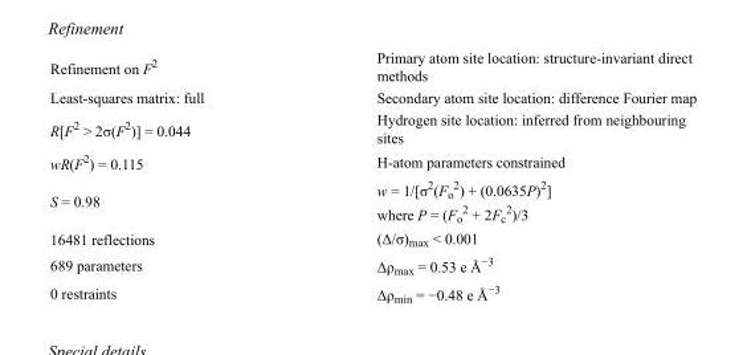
<table><tbody><tr><td>Refinement on F<sup>2</sup></td><td>Primary atom site location: structure-invariant direct methods</td></tr><tr><td>Least-squares matrix: full</td><td>Secondary atom site location: difference Fourier map</td></tr><tr><td>R[F<sup>2</sup> &gt; 2σ(F<sup>2</sup>)] = 0.044</td><td>Hydrogen site location: inferred from neighbouring sites</td></tr><tr><td>wR(F<sup>2</sup>) = 0.115</td><td>H-atom parameters constrained</td></tr><tr><td>S = 0.98</td><td>w = 1/[σ<sup>2</sup>(F<sub>o</sub> <sup>2</sup>) + (0.0635P)<sup>2</sup>] where P = (F<sub>o</sub> <sup>2</sup> + 2F<sub>c</sub> <sup>2</sup>)/3</td></tr><tr><td>16481 reflections</td><td>(Δ/σ)<sub>max</sub> &lt; 0.001</td></tr><tr><td>689 parameters</td><td>Δρ<sub>max</sub> = 0.53 e Å<sup>−3</sup></td></tr><tr><td>0 restraints</td><td>Δρ<sub>min</sub> = −0.48 e Å<sup>−3</sup></td></tr></tbody></table>